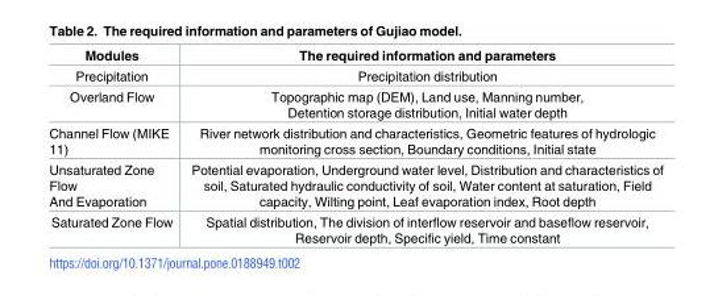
<table><thead><tr><td>Modules</td><td>The required information and parameters</td></tr></thead><tbody><tr><td>Precipitation</td><td>Precipitation distribution</td></tr><tr><td>Overland Flow</td><td>Topographic map (DEM), Land use, Manning number, Detention storage distribution, Initial water depth</td></tr><tr><td>Channel Flow (MIKE 11)</td><td>River network distribution and characteristics, Geometric features of hydrologic monitoring cross section, Boundary conditions, Initial state</td></tr><tr><td>Unsaturated Zone Flow And Evaporation</td><td>Potential evaporation, Underground water level, Distribution and characteristics of soil, Saturated hydraulic conductivity of soil, Water content at saturation, Field capacity, Wilting point, Leaf evaporation index, Root depth</td></tr><tr><td>Saturated Zone Flow</td><td>Spatial distribution, The division of interflow reservoir and baseflow reservoir, Reservoir depth, Specific yield, Time constant</td></tr></tbody></table>